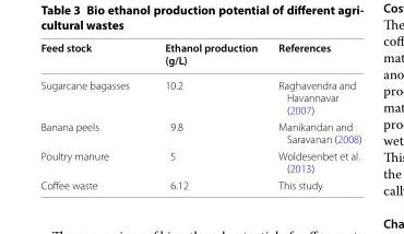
<table><thead><tr><td>Feed stock</td><td>Ethanol production (g/L)</td><td>References</td></tr></thead><tbody><tr><td>Sugarcane bagasses</td><td>10.2</td><td>Raghavendra and Havannavar (2007)</td></tr><tr><td>Banana peels</td><td>9.8</td><td>Manikandan and Saravanan (2008)</td></tr><tr><td>Poultry manure</td><td>5</td><td>Woldesenbet et al. (2013)</td></tr><tr><td>Coffee waste</td><td>6.12</td><td>This study</td></tr></tbody></table>